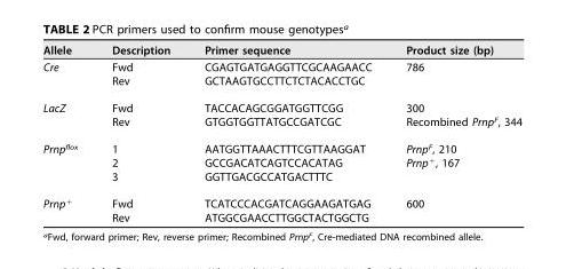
<table><thead><tr><td>Allele</td><td>Description</td><td>Primer sequence</td><td>Product size (bp)</td></tr></thead><tbody><tr><td rowspan="2">Cre</td><td>Fwd</td><td>CGAGTGATGAGGTTCGCAAGAACC</td><td>786</td></tr><tr><td>Rev</td><td>GCTAAGTGCCTTCTCTACACCTGC</td><td></td></tr><tr><td rowspan="2">LacZ</td><td>Fwd</td><td>TACCACAGCGGATGGTTCGG</td><td>300</td></tr><tr><td>Rev</td><td>GTGGTGGTTATGCCGATCGC</td><td>Recombined Prnp<sup>F</sup>, 344</td></tr><tr><td rowspan="3">Prnp<sup>flox</sup></td><td>1</td><td>AATGGTTAAACTTTCGTTAAGGAT</td><td>Prnp<sup>F</sup>, 210</td></tr><tr><td>2</td><td>GCCGACATCAGTCCACATAG</td><td>Prnp<sup>+</sup>, 167</td></tr><tr><td>3</td><td>GGTTGACGCCATGACTTTC</td><td></td></tr><tr><td rowspan="2">Prnp<sup>+</sup></td><td>Fwd</td><td>TCATCCCACGATCAGGAAGATGAG</td><td>600</td></tr><tr><td>Rev</td><td>ATGGCGAACCTTGGCTACTGGCTG</td><td></td></tr></tbody></table>